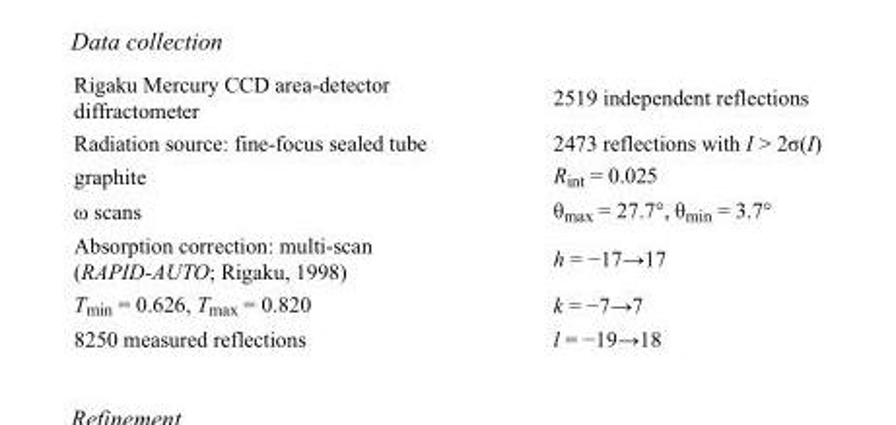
<table><tbody><tr><td>Rigaku Mercury CCD area-detector diffractometer</td><td>2519 independent reflections</td></tr><tr><td>Radiation source: fine-focus sealed tube</td><td>2473 reflections with I &gt; 2σ(I)</td></tr><tr><td>graphite</td><td>R<sub>int</sub> = 0.025</td></tr><tr><td>ω scans</td><td>θ<sub>max</sub> = 27.7°, θ<sub>min</sub> = 3.7°</td></tr><tr><td>Absorption correction: multi-scan (RAPID-AUTO; Rigaku, 1998)</td><td>h = −17→17</td></tr><tr><td>T<sub>min</sub> = 0.626, T<sub>max</sub> = 0.820</td><td>k = −7→7</td></tr><tr><td>8250 measured reflections</td><td>l = −19→18</td></tr></tbody></table>